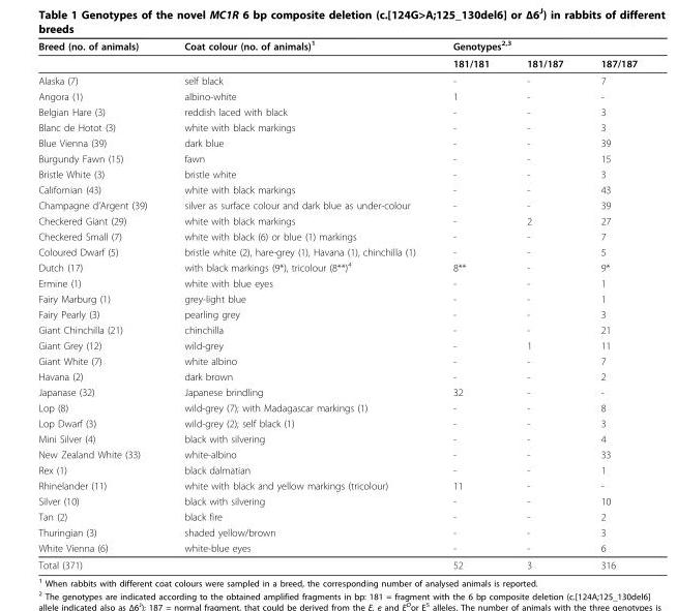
<table><thead><tr><td rowspan="2">Breed (no. of animals)</td><td rowspan="2">Coat colour (no. of animals)<sup>1</sup></td><td colspan="3">Genotypes<sup>2,3</sup></td></tr><tr><td>181/181</td><td>181/187</td><td>187/187</td></tr></thead><tbody><tr><td>Alaska (7)</td><td>self black</td><td>-</td><td>-</td><td>7</td></tr><tr><td>Angora (1)</td><td>albino-white</td><td>1</td><td>-</td><td>-</td></tr><tr><td>Belgian Hare (3)</td><td>reddish laced with black</td><td>-</td><td>-</td><td>3</td></tr><tr><td>Blanc de Hotot (3)</td><td>white with black markings</td><td>-</td><td>-</td><td>3</td></tr><tr><td>Blue Vienna (39)</td><td>dark blue</td><td>-</td><td>-</td><td>39</td></tr><tr><td>Burgundy Fawn (15)</td><td>fawn</td><td>-</td><td>-</td><td>15</td></tr><tr><td>Bristle White (3)</td><td>bristle white</td><td>-</td><td>-</td><td>3</td></tr><tr><td>Californian (43)</td><td>white with black markings</td><td>-</td><td>-</td><td>43</td></tr><tr><td>Champagne d’Argent (39)</td><td>silver as surface colour and dark blue as under-colour</td><td>-</td><td>-</td><td>39</td></tr><tr><td>Checkered Giant (29)</td><td>white with black markings</td><td>-</td><td>2</td><td>27</td></tr><tr><td>Checkered Small (7)</td><td>white with black (6) or blue (1) markings</td><td>-</td><td>-</td><td>7</td></tr><tr><td>Coloured Dwarf (5)</td><td>bristle white (2), hare-grey (1), Havana (1), chinchilla (1)</td><td>-</td><td>-</td><td>5</td></tr><tr><td>Dutch (17)</td><td>with black markings (9*), tricolour (8**)<sup>4</sup></td><td>8**</td><td>-</td><td>9*</td></tr><tr><td>Ermine (1)</td><td>white with blue eyes</td><td>-</td><td>-</td><td>1</td></tr><tr><td>Fairy Marburg (1)</td><td>grey-light blue</td><td>-</td><td>-</td><td>1</td></tr><tr><td>Fairy Pearly (3)</td><td>pearling grey</td><td>-</td><td>-</td><td>3</td></tr><tr><td>Giant Chinchilla (21)</td><td>chinchilla</td><td>-</td><td>-</td><td>21</td></tr><tr><td>Giant Grey (12)</td><td>wild-grey</td><td>-</td><td>1</td><td>11</td></tr><tr><td>Giant White (7)</td><td>white albino</td><td>-</td><td>-</td><td>7</td></tr><tr><td>Havana (2)</td><td>dark brown</td><td>-</td><td>-</td><td>2</td></tr><tr><td>Japanase (32)</td><td>Japanese brindling</td><td>32</td><td>-</td><td>-</td></tr><tr><td>Lop (8)</td><td>wild-grey (7); with Madagascar markings (1)</td><td>-</td><td>-</td><td>8</td></tr><tr><td>Lop Dwarf (3)</td><td>wild-grey (2); self black (1)</td><td>-</td><td>-</td><td>3</td></tr><tr><td>Mini Silver (4)</td><td>black with silvering</td><td>-</td><td>-</td><td>4</td></tr><tr><td>New Zealand White (33)</td><td>white-albino</td><td>-</td><td>-</td><td>33</td></tr><tr><td>Rex (1)</td><td>black dalmatian</td><td>-</td><td>-</td><td>1</td></tr><tr><td>Rhinelander (11)</td><td>white with black and yellow markings (tricolour)</td><td>11</td><td>-</td><td>-</td></tr><tr><td>Silver (10)</td><td>black with silvering</td><td>-</td><td>-</td><td>10</td></tr><tr><td>Tan (2)</td><td>black fire</td><td>-</td><td>-</td><td>2</td></tr><tr><td>Thuringian (3)</td><td>shaded yellow/brown</td><td>-</td><td>-</td><td>3</td></tr><tr><td>White Vienna (6)</td><td>white-blue eyes</td><td>-</td><td>-</td><td>6</td></tr><tr><td>Total (371)</td><td></td><td>52</td><td>3</td><td>316</td></tr></tbody></table>